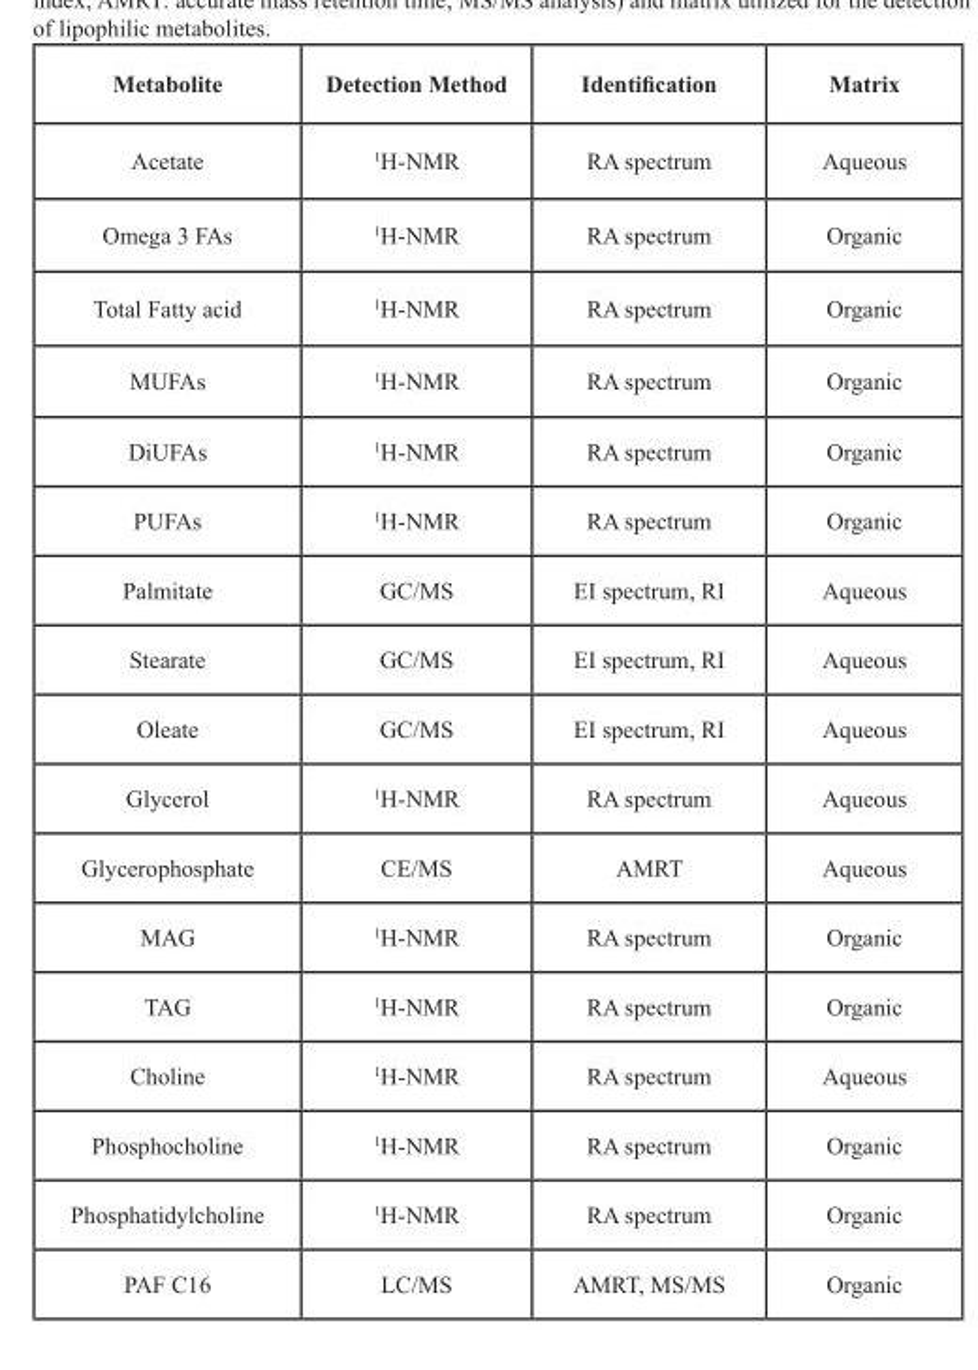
<table><thead><tr><td>Metabolite</td><td>Detection Method</td><td>Identification</td><td>Matrix</td></tr></thead><tbody><tr><td>Acetate</td><td><sup>1</sup>H-NMR</td><td>RA spectrum</td><td>Aqueous</td></tr><tr><td>Omega 3 FAs</td><td><sup>1</sup>H-NMR</td><td>RA spectrum</td><td>Organic</td></tr><tr><td>Total Fatty acid</td><td><sup>1</sup>H-NMR</td><td>RA spectrum</td><td>Organic</td></tr><tr><td>MUFAs</td><td><sup>1</sup>H-NMR</td><td>RA spectrum</td><td>Organic</td></tr><tr><td>DiUFAs</td><td><sup>1</sup>H-NMR</td><td>RA spectrum</td><td>Organic</td></tr><tr><td>PUFAs</td><td><sup>1</sup>H-NMR</td><td>RA spectrum</td><td>Organic</td></tr><tr><td>Palmitate</td><td>GC/MS</td><td>EI spectrum, RI</td><td>Aqueous</td></tr><tr><td>Stearate</td><td>GC/MS</td><td>EI spectrum, RI</td><td>Aqueous</td></tr><tr><td>Oleate</td><td>GC/MS</td><td>EI spectrum, RI</td><td>Aqueous</td></tr><tr><td>Glycerol</td><td><sup>1</sup>H-NMR</td><td>RA spectrum</td><td>Aqueous</td></tr><tr><td>Glycerophosphate</td><td>CE/MS</td><td>AMRT</td><td>Aqueous</td></tr><tr><td>MAG</td><td><sup>1</sup>H-NMR</td><td>RA spectrum</td><td>Organic</td></tr><tr><td>TAG</td><td><sup>1</sup>H-NMR</td><td>RA spectrum</td><td>Organic</td></tr><tr><td>Choline</td><td><sup>1</sup>H-NMR</td><td>RA spectrum</td><td>Aqueous</td></tr><tr><td>Phosphocholine</td><td><sup>1</sup>H-NMR</td><td>RA spectrum</td><td>Organic</td></tr><tr><td>Phosphatidylcholine</td><td><sup>1</sup>H-NMR</td><td>RA spectrum</td><td>Organic</td></tr><tr><td>PAF C16</td><td>LC/MS</td><td>AMRT, MS/MS</td><td>Organic</td></tr></tbody></table>